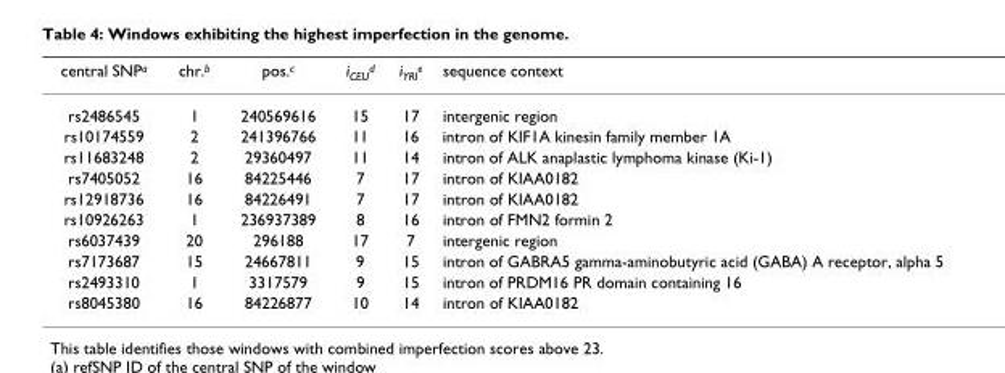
<table><thead><tr><td>central SNP<sup>a</sup></td><td>chr.<sup>b</sup></td><td>pos.<sup>c</sup></td><td>i<sub>CEU</sub><sup>d</sup></td><td>i<sub>YRI</sub><sup>e</sup></td><td>sequence context</td></tr></thead><tbody><tr><td>rs2486545</td><td>1</td><td>240569616</td><td>15</td><td>17</td><td>intergenic region</td></tr><tr><td>rs10174559</td><td>2</td><td>241396766</td><td>11</td><td>16</td><td>intron of KIF1A kinesin family member 1A</td></tr><tr><td>rs11683248</td><td>2</td><td>29360497</td><td>11</td><td>14</td><td>intron of ALK anaplastic lymphoma kinase (Ki-1)</td></tr><tr><td>rs7405052</td><td>16</td><td>84225446</td><td>7</td><td>17</td><td>intron of KIAA0182</td></tr><tr><td>rs12918736</td><td>16</td><td>84226491</td><td>7</td><td>17</td><td>intron of KIAA0182</td></tr><tr><td>rs10926263</td><td>1</td><td>236937389</td><td>8</td><td>16</td><td>intron of FMN2 formin 2</td></tr><tr><td>rs6037439</td><td>20</td><td>296188</td><td>17</td><td>7</td><td>intergenic region</td></tr><tr><td>rs7173687</td><td>15</td><td>24667811</td><td>9</td><td>15</td><td>intron of GABRA5 gamma-aminobutyric acid (GABA) A receptor, alpha 5</td></tr><tr><td>rs2493310</td><td>1</td><td>3317579</td><td>9</td><td>15</td><td>intron of PRDM16 PR domain containing 16</td></tr><tr><td>rs8045380</td><td>16</td><td>84226877</td><td>10</td><td>14</td><td>intron of KIAA0182</td></tr></tbody></table>